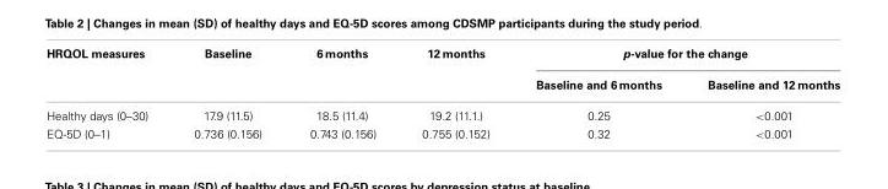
<table><thead><tr><td rowspan="2">HRQOL measures</td><td rowspan="2">Baseline</td><td rowspan="2">6 months</td><td rowspan="2">12 months</td><td colspan="2">p-value for the change</td></tr><tr><td>Baseline and 6 months</td><td>Baseline and 12 months</td></tr></thead><tbody><tr><td>Healthy days (0–30)</td><td>17.9 (11.5)</td><td>18.5 (11.4)</td><td>19.2 (11.1.)</td><td>0.25</td><td>&lt;0.001</td></tr><tr><td>EQ-5D (0–1)</td><td>0.736 (0.156)</td><td>0.743 (0.156)</td><td>0.755 (0.152)</td><td>0.32</td><td>&lt;0.001</td></tr></tbody></table>